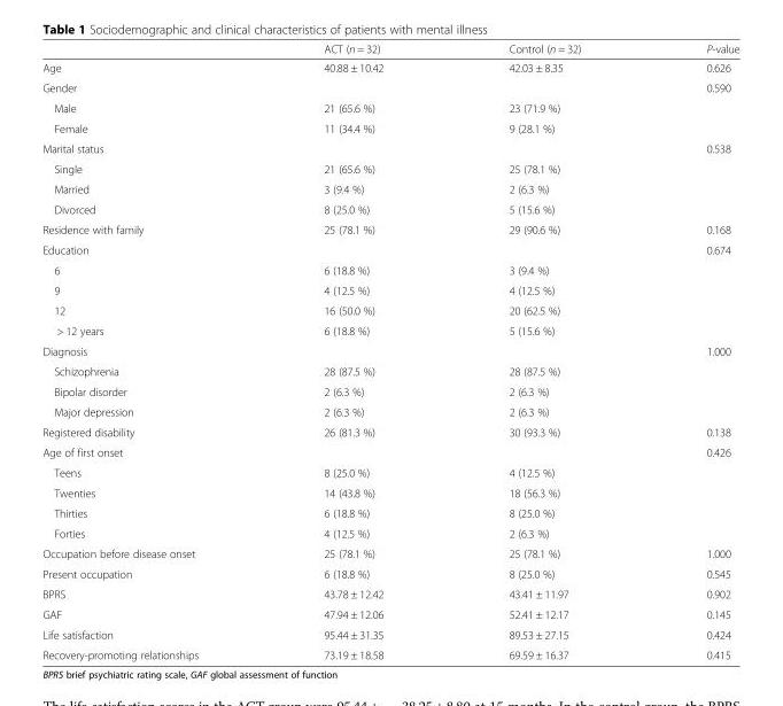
<table><thead><tr><td></td><td>ACT (n = 32)</td><td>Control (n = 32)</td><td>P-value</td></tr></thead><tbody><tr><td>Age</td><td>40.88 ± 10.42</td><td>42.03 ± 8.35</td><td>0.626</td></tr><tr><td>Gender</td><td></td><td></td><td>0.590</td></tr><tr><td>Male</td><td>21 (65.6 %)</td><td>23 (71.9 %)</td><td rowspan="2"></td></tr><tr><td>Female</td><td>11 (34.4 %)</td><td>9 (28.1 %)</td></tr><tr><td>Marital status</td><td></td><td></td><td>0.538</td></tr><tr><td>Single</td><td>21 (65.6 %)</td><td>25 (78.1 %)</td><td rowspan="3"></td></tr><tr><td>Married</td><td>3 (9.4 %)</td><td>2 (6.3 %)</td></tr><tr><td>Divorced</td><td>8 (25.0 %)</td><td>5 (15.6 %)</td></tr><tr><td>Residence with family</td><td>25 (78.1 %)</td><td>29 (90.6 %)</td><td>0.168</td></tr><tr><td>Education</td><td></td><td></td><td>0.674</td></tr><tr><td>6</td><td>6 (18.8 %)</td><td>3 (9.4 %)</td><td rowspan="4"></td></tr><tr><td>9</td><td>4 (12.5 %)</td><td>4 (12.5 %)</td></tr><tr><td>12</td><td>16 (50.0 %)</td><td>20 (62.5 %)</td></tr><tr><td>&gt; 12 years</td><td>6 (18.8 %)</td><td>5 (15.6 %)</td></tr><tr><td>Diagnosis</td><td></td><td></td><td>1.000</td></tr><tr><td>Schizophrenia</td><td>28 (87.5 %)</td><td>28 (87.5 %)</td><td rowspan="3"></td></tr><tr><td>Bipolar disorder</td><td>2 (6.3 %)</td><td>2 (6.3 %)</td></tr><tr><td>Major depression</td><td>2 (6.3 %)</td><td>2 (6.3 %)</td></tr><tr><td>Registered disability</td><td>26 (81.3 %)</td><td>30 (93.3 %)</td><td>0.138</td></tr><tr><td>Age of first onset</td><td></td><td></td><td>0.426</td></tr><tr><td>Teens</td><td>8 (25.0 %)</td><td>4 (12.5 %)</td><td rowspan="4"></td></tr><tr><td>Twenties</td><td>14 (43.8 %)</td><td>18 (56.3 %)</td></tr><tr><td>Thirties</td><td>6 (18.8 %)</td><td>8 (25.0 %)</td></tr><tr><td>Forties</td><td>4 (12.5 %)</td><td>2 (6.3 %)</td></tr><tr><td>Occupation before disease onset</td><td>25 (78.1 %)</td><td>25 (78.1 %)</td><td>1.000</td></tr><tr><td>Present occupation</td><td>6 (18.8 %)</td><td>8 (25.0 %)</td><td>0.545</td></tr><tr><td>BPRS</td><td>43.78 ± 12.42</td><td>43.41 ± 11.97</td><td>0.902</td></tr><tr><td>GAF</td><td>47.94 ± 12.06</td><td>52.41 ± 12.17</td><td>0.145</td></tr><tr><td>Life satisfaction</td><td>95.44 ± 31.35</td><td>89.53 ± 27.15</td><td>0.424</td></tr><tr><td>Recovery-promoting relationships</td><td>73.19 ± 18.58</td><td>69.59 ± 16.37</td><td>0.415</td></tr></tbody></table>